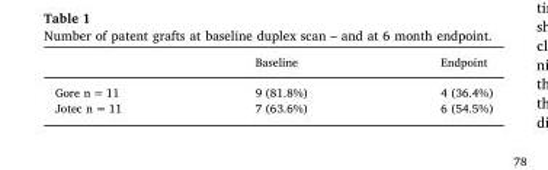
<table><thead><tr><td></td><td>Baseline</td><td>Endpoint</td></tr></thead><tbody><tr><td>Gore n = 11</td><td>9 (81.8%)</td><td>4 (36.4%)</td></tr><tr><td>Jotec n = 11</td><td>7 (63.6%)</td><td>6 (54.5%)</td></tr></tbody></table>